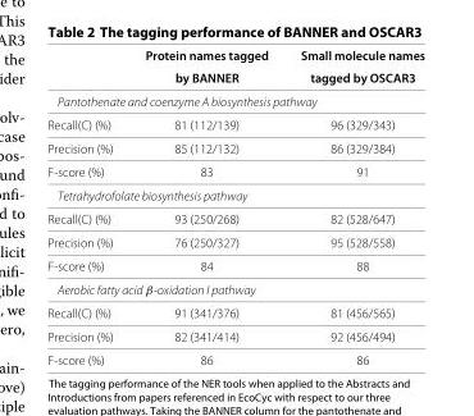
<table><thead><tr><td rowspan="2"></td><td rowspan="2">Protein names tagged by BANNER</td><td rowspan="2">Small molecule names tagged by OSCAR3</td></tr><tr></tr></thead><tbody><tr><td colspan="3">Pantothenate and coenzyme A biosynthesis pathway</td></tr><tr><td>Recall(C) (%)</td><td>81 (112/139)</td><td>96 (329/343)</td></tr><tr><td>Precision (%)</td><td>85 (112/132)</td><td>86 (329/384)</td></tr><tr><td>F-score (%)</td><td>83</td><td>91</td></tr><tr><td colspan="3">Tetrahydrofolate biosynthesis pathway</td></tr><tr><td>Recall(C) (%)</td><td>93 (250/268)</td><td>82 (528/647)</td></tr><tr><td>Precision (%)</td><td>76 (250/327)</td><td>95 (528/558)</td></tr><tr><td>F-score (%)</td><td>84</td><td>88</td></tr><tr><td colspan="3">Aerobic fatty acid β-oxidation I pathway</td></tr><tr><td>Recall(C) (%)</td><td>91 (341/376)</td><td>81 (456/565)</td></tr><tr><td>Precision (%)</td><td>82 (341/414)</td><td>92 (456/494)</td></tr><tr><td>F-score (%)</td><td>86</td><td>86</td></tr></tbody></table>